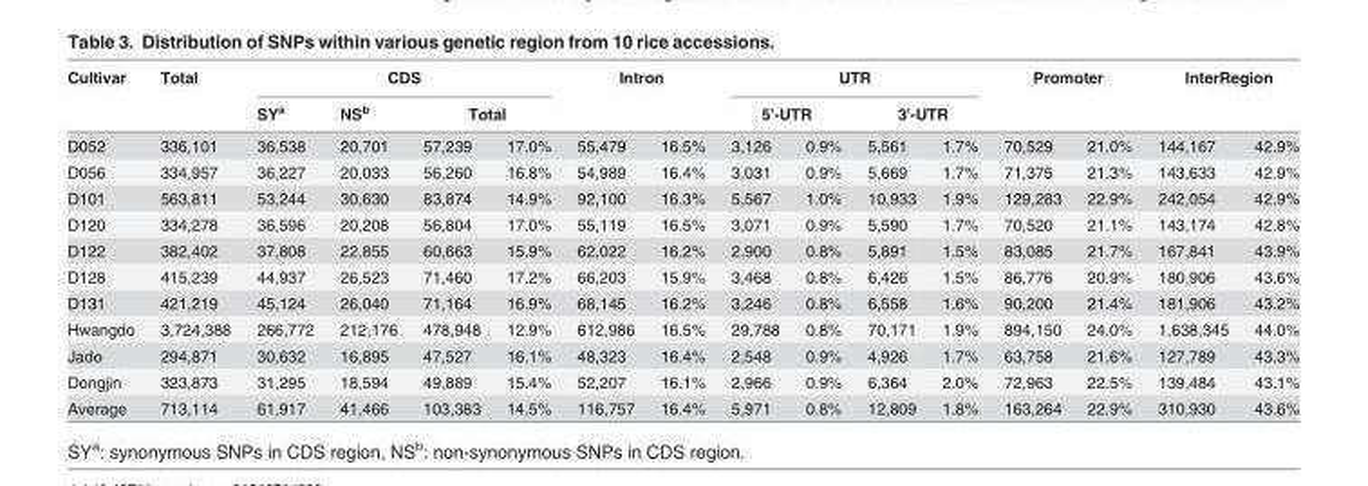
<table><thead><tr><td rowspan="3">Cultivar D052</td><td rowspan="3">Total 336,101</td><td colspan="4">CDS</td><td rowspan="2" colspan="2">Intron</td><td colspan="4">UTR</td><td rowspan="2" colspan="2">Promoter</td><td rowspan="2" colspan="2">InterRegion</td></tr><tr><td rowspan="2">SY<sup>a</sup> 36,538</td><td rowspan="2">NS<sup>b</sup> 20,701</td><td colspan="2">Total</td><td colspan="2">5&#x27;-UTR</td><td colspan="2">3&#x27;-UTR</td></tr><tr><td>57,239</td><td>17.0%</td><td>55,479</td><td>16.5%</td><td>3,126</td><td>0.9%</td><td>5,561</td><td>1.7%</td><td>70,529</td><td>21.0%</td><td>144,167</td><td>42.9%</td></tr></thead><tbody><tr><td>D056</td><td>334,957</td><td>36,227</td><td>20,033</td><td>56,260</td><td>16.8%</td><td>54,989</td><td>16.4%</td><td>3,031</td><td>0.9%</td><td>5,669</td><td>1.7%</td><td>71,375</td><td>21.3%</td><td>143,633</td><td>42.9%</td></tr><tr><td>D101</td><td>563,811</td><td>53,244</td><td>30,630</td><td>83,874</td><td>14.9%</td><td>92,100</td><td>16.3%</td><td>5,567</td><td>1.0%</td><td>10,933</td><td>1.9%</td><td>129,283</td><td>22.9%</td><td>242,054</td><td>42.9%</td></tr><tr><td>D120</td><td>334,278</td><td>36,596</td><td>20,208</td><td>56,804</td><td>17.0%</td><td>55,119</td><td>16.5%</td><td>3,071</td><td>0.9%</td><td>5,590</td><td>1.7%</td><td>70,520</td><td>21.1%</td><td>143,174</td><td>42.8%</td></tr><tr><td>D122</td><td>382,402</td><td>37,808</td><td>22,855</td><td>60,663</td><td>15.9%</td><td>62,022</td><td>16.2%</td><td>2,900</td><td>0.8%</td><td>5,891</td><td>1.5%</td><td>83,085</td><td>21.7%</td><td>167,841</td><td>43.9%</td></tr><tr><td>D128</td><td>415,239</td><td>44,937</td><td>26,523</td><td>71,460</td><td>17.2%</td><td>66,203</td><td>15.9%</td><td>3,468</td><td>0.8%</td><td>6,426</td><td>1.5%</td><td>86,776</td><td>20.9%</td><td>180,906</td><td>43.6%</td></tr><tr><td>D131</td><td>421,219</td><td>45,124</td><td>26,040</td><td>71,164</td><td>16.9%</td><td>68,145</td><td>16.2%</td><td>3,246</td><td>0.8%</td><td>6,558</td><td>1.6%</td><td>90,200</td><td>21.4%</td><td>181,906</td><td>43.2%</td></tr><tr><td>Hwangdo</td><td>3,724,388</td><td>266,772</td><td>212,176</td><td>478,948</td><td>12.9%</td><td>612,986</td><td>16.5%</td><td>29,788</td><td>0.8%</td><td>70,171</td><td>1.9%</td><td>894,150</td><td>24.0%</td><td>1,638,345</td><td>44.0%</td></tr><tr><td>Jado</td><td>294,871</td><td>30,632</td><td>16,895</td><td>47,527</td><td>16.1%</td><td>48,323</td><td>16.4%</td><td>2,548</td><td>0.9%</td><td>4,926</td><td>1.7%</td><td>63,758</td><td>21.6%</td><td>127,789</td><td>43.3%</td></tr><tr><td>Dongjin</td><td>323,873</td><td>31,295</td><td>18,594</td><td>49,889</td><td>15.4%</td><td>52,207</td><td>16.1%</td><td>2,966</td><td>0.9%</td><td>6,364</td><td>2.0%</td><td>72,963</td><td>22.5%</td><td>139,484</td><td>43.1%</td></tr><tr><td>Average</td><td>713,114</td><td>61,917</td><td>41,466</td><td>103,383</td><td>14.5%</td><td>116,757</td><td>16.4%</td><td>5,971</td><td>0.8%</td><td>12,809</td><td>1.8%</td><td>163,264</td><td>22.9%</td><td>310,930</td><td>43.6%</td></tr></tbody></table>